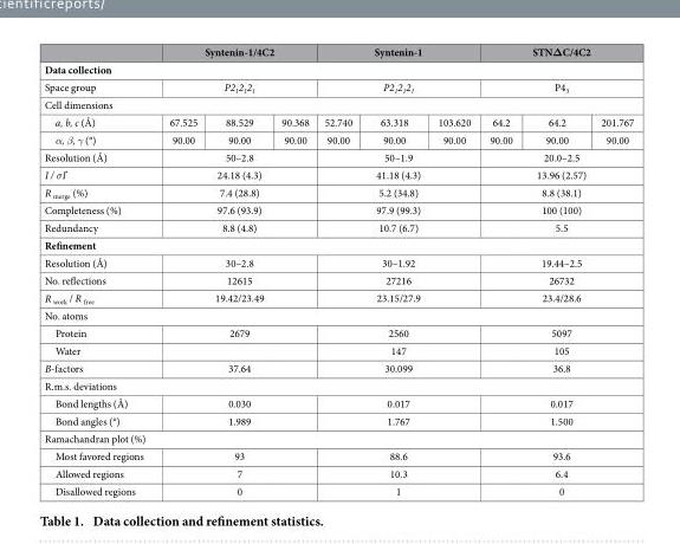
<table><thead><tr><td></td><td colspan="3">Syntenin-1/4C2</td><td colspan="3">Syntenin-1</td><td colspan="3">STNΔC/4C2</td></tr></thead><tbody><tr><td colspan="10">Data collection</td></tr><tr><td>Space group</td><td colspan="3">P2<sub>1</sub>2<sub>1</sub>2<sub>1</sub></td><td colspan="3">P2<sub>1</sub>2<sub>1</sub>2<sub>1</sub></td><td colspan="3">P4<sub>3</sub></td></tr><tr><td colspan="10">Cell dimensions</td></tr><tr><td>a, b, c (Å)</td><td>67.525</td><td>88.529</td><td>90.368</td><td>52.740</td><td>63.318</td><td>103.620</td><td>64.2</td><td>64.2</td><td>201.767</td></tr><tr><td>α, β, γ (°)</td><td>90.00</td><td>90.00</td><td>90.00</td><td>90.00</td><td>90.00</td><td>90.00</td><td>90.00</td><td>90.00</td><td>90.00</td></tr><tr><td>Resolution (Å)</td><td colspan="3">50–2.8</td><td colspan="3">50–1.9</td><td colspan="3">20.0–2.5</td></tr><tr><td>I / σI*</td><td colspan="3">24.18 (4.3)</td><td colspan="3">41.18 (4.3)</td><td colspan="3">13.96 (2.57)</td></tr><tr><td>R <sub>merge</sub> (%)</td><td colspan="3">7.4 (28.8)</td><td colspan="3">5.2 (34.8)</td><td colspan="3">8.8 (38.1)</td></tr><tr><td>Completeness (%)</td><td colspan="3">97.6 (93.9)</td><td colspan="3">97.9 (99.3)</td><td colspan="3">100 (100)</td></tr><tr><td>Redundancy</td><td colspan="3">8.8 (4.8)</td><td colspan="3">10.7 (6.7)</td><td colspan="3">5.5</td></tr><tr><td colspan="10">Refinement</td></tr><tr><td>Resolution (Å)</td><td colspan="3">30–2.8</td><td colspan="3">30–1.92</td><td colspan="3">19.44–2.5</td></tr><tr><td>No. reflections</td><td colspan="3">12615</td><td colspan="3">27216</td><td colspan="3">26732</td></tr><tr><td>R <sub>work</sub> / R <sub>free</sub></td><td colspan="3">19.42/23.49</td><td colspan="3">23.15/27.9</td><td colspan="3">23.4/28.6</td></tr><tr><td colspan="10">No. atoms</td></tr><tr><td>Protein</td><td colspan="3">2679</td><td colspan="3">2560</td><td colspan="3">5097</td></tr><tr><td>Water</td><td colspan="3"></td><td colspan="3">147</td><td colspan="3">105</td></tr><tr><td>B-factors</td><td colspan="3">37.64</td><td colspan="3">30.099</td><td colspan="3">36.8</td></tr><tr><td colspan="10">R.m.s. deviations</td></tr><tr><td>Bond lengths (Å)</td><td colspan="3">0.030</td><td colspan="3">0.017</td><td colspan="3">0.017</td></tr><tr><td>Bond angles (°)</td><td colspan="3">1.989</td><td colspan="3">1.767</td><td colspan="3">1.500</td></tr><tr><td colspan="10">Ramachandran plot (%)</td></tr><tr><td>Most favored regions</td><td colspan="3">93</td><td colspan="3">88.6</td><td colspan="3">93.6</td></tr><tr><td>Allowed regions</td><td colspan="3">7</td><td colspan="3">10.3</td><td colspan="3">6.4</td></tr><tr><td>Disallowed regions</td><td colspan="3">0</td><td colspan="3">1</td><td colspan="3">0</td></tr></tbody></table>